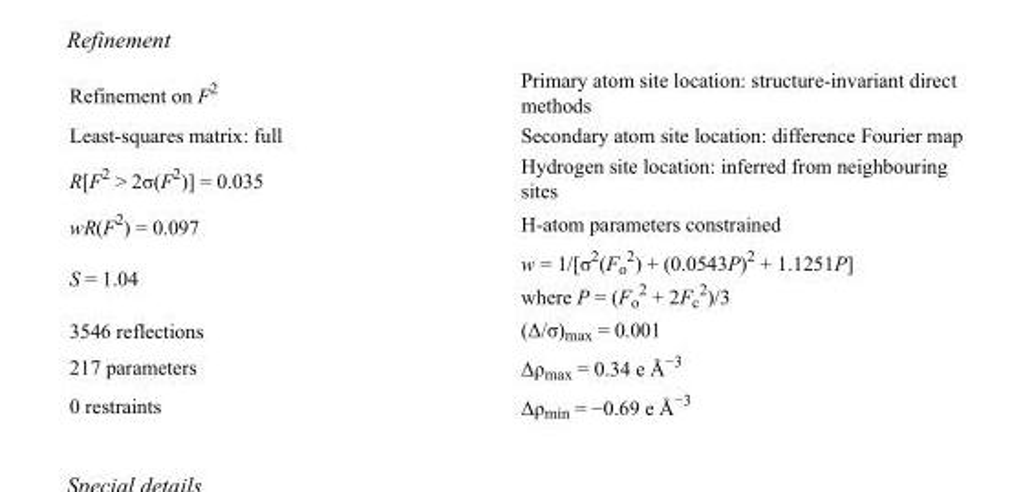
<table><tbody><tr><td>Refinement on F<sup>2</sup></td><td>Primary atom site location: structure-invariant direct methods</td></tr><tr><td>Least-squares matrix: full</td><td>Secondary atom site location: difference Fourier map</td></tr><tr><td>R[F<sup>2</sup> &gt; 2σ(F<sup>2</sup>)] = 0.035</td><td>Hydrogen site location: inferred from neighbouring sites</td></tr><tr><td>wR(F<sup>2</sup>) = 0.097</td><td>H-atom parameters constrained</td></tr><tr><td>S = 1.04</td><td>w = 1/[σ<sup>2</sup>(F<sub>o</sub> <sup>2</sup>) + (0.0543P)<sup>2</sup> + 1.1251P] where P = (F<sub>o</sub> <sup>2</sup> + 2F<sub>c</sub> <sup>2</sup>)/3</td></tr><tr><td>3546 reflections</td><td>(Δ/σ)<sub>max</sub> = 0.001</td></tr><tr><td>217 parameters</td><td>Δρ<sub>max</sub> = 0.34 e Å<sup>−3</sup></td></tr><tr><td>0 restraints</td><td>Δρ<sub>min</sub> = −0.69 e Å<sup>−3</sup></td></tr></tbody></table>